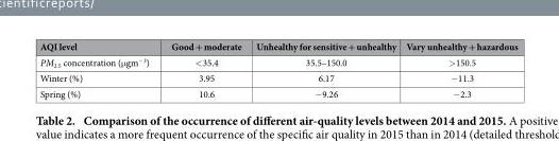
<table><thead><tr><td>AQI level</td><td>Good + moderate</td><td>Unhealthy for sensitive + unhealthy</td><td>Vary unhealthy + hazardous</td></tr></thead><tbody><tr><td>PM<sub>2.5</sub> concentration (μ gm<sup>−3</sup>)</td><td>&lt; 35.4</td><td>35.5–150.0</td><td>&gt; 150.5</td></tr><tr><td>Winter (%)</td><td>3.95</td><td>6.17</td><td>− 11.3</td></tr><tr><td>Spring (%)</td><td>10.6</td><td>− 9.26</td><td>− 2.3</td></tr></tbody></table>